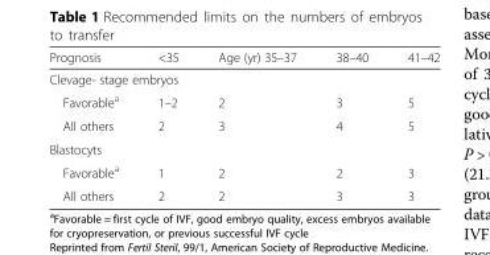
<table><thead><tr><td>Prognosis</td><td>&lt;35</td><td>Age (yr) 35–37</td><td>38–40</td><td>41–42</td></tr></thead><tbody><tr><td colspan="5">Clevage- stage embryos</td></tr><tr><td>Favorable<sup>a</sup></td><td>1–2</td><td>2</td><td>3</td><td>5</td></tr><tr><td>All others</td><td>2</td><td>3</td><td>4</td><td>5</td></tr><tr><td colspan="5">Blastocyts</td></tr><tr><td>Favorable<sup>a</sup></td><td>1</td><td>2</td><td>2</td><td>3</td></tr><tr><td>All others</td><td>2</td><td>2</td><td>3</td><td>3</td></tr></tbody></table>